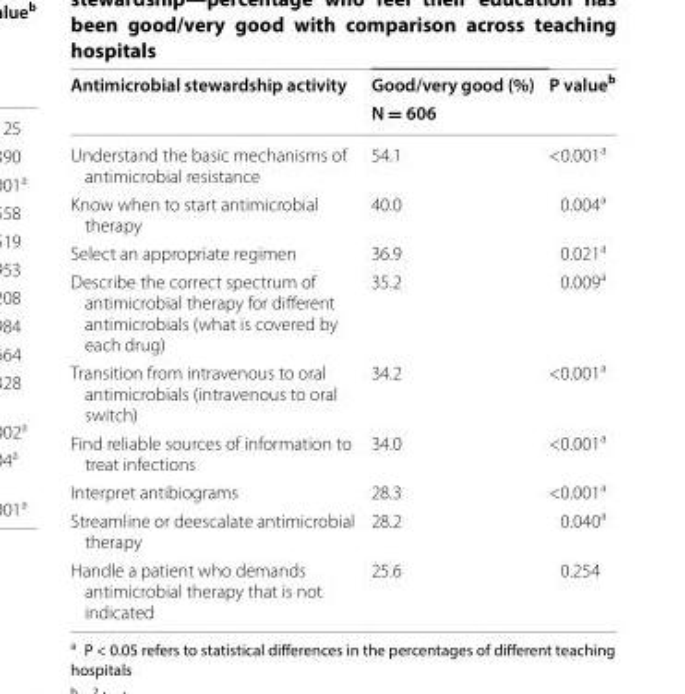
<table><thead><tr><td rowspan="2">Antimicrobial stewardship activity</td><td rowspan="2">Good/very good (%) N = 606</td><td rowspan="2">P value<sup>b</sup></td></tr><tr></tr></thead><tbody><tr><td>Understand the basic mechanisms of antimicrobial resistance</td><td>54.1</td><td>&lt;0.001<sup>a</sup></td></tr><tr><td>Know when to start antimicrobial therapy</td><td>40.0</td><td>0.004<sup>a</sup></td></tr><tr><td>Select an appropriate regimen</td><td>36.9</td><td>0.021<sup>a</sup></td></tr><tr><td>Describe the correct spectrum of antimicrobial therapy for different antimicrobials (what is covered by each drug)</td><td>35.2</td><td>0.009<sup>a</sup></td></tr><tr><td>Transition from intravenous to oral antimicrobials (intravenous to oral switch)</td><td>34.2</td><td>&lt;0.001<sup>a</sup></td></tr><tr><td>Find reliable sources of information to treat infections</td><td>34.0</td><td>&lt;0.001<sup>a</sup></td></tr><tr><td>Interpret antibiograms</td><td>28.3</td><td>&lt;0.001<sup>a</sup></td></tr><tr><td>Streamline or deescalate antimicrobial therapy</td><td>28.2</td><td>0.040<sup>a</sup></td></tr><tr><td>Handle a patient who demands antimicrobial therapy that is not indicated</td><td>25.6</td><td>0.254</td></tr></tbody></table>